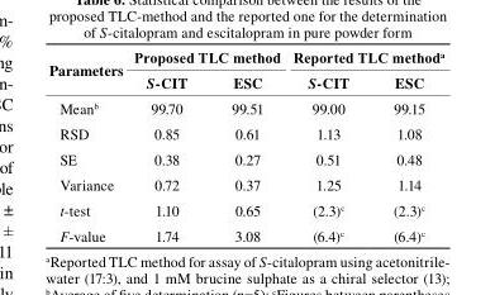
<table><thead><tr><td rowspan="2">Parameters</td><td colspan="2">Proposed TLC method</td><td colspan="2">Reported TLC method<sup>a</sup></td></tr><tr><td>S-cIt</td><td>Esc</td><td>S-cIt</td><td>Esc</td></tr></thead><tbody><tr><td>Mean<sup>b</sup></td><td>99.70</td><td>99.51</td><td>99.00</td><td>99.15</td></tr><tr><td>RSD</td><td>0.85</td><td>0.61</td><td>1.13</td><td>1.08</td></tr><tr><td>SE</td><td>0.38</td><td>0.27</td><td>0.51</td><td>0.48</td></tr><tr><td>Variance</td><td>0.72</td><td>0.37</td><td>1.25</td><td>1.14</td></tr><tr><td>t-test</td><td>1.10</td><td>0.65</td><td>(2.3)<sup>c</sup></td><td>(2.3)<sup>c</sup></td></tr><tr><td>F-value</td><td>1.74</td><td>3.08</td><td>(6.4)<sup>c</sup></td><td>(6.4)<sup>c</sup></td></tr></tbody></table>